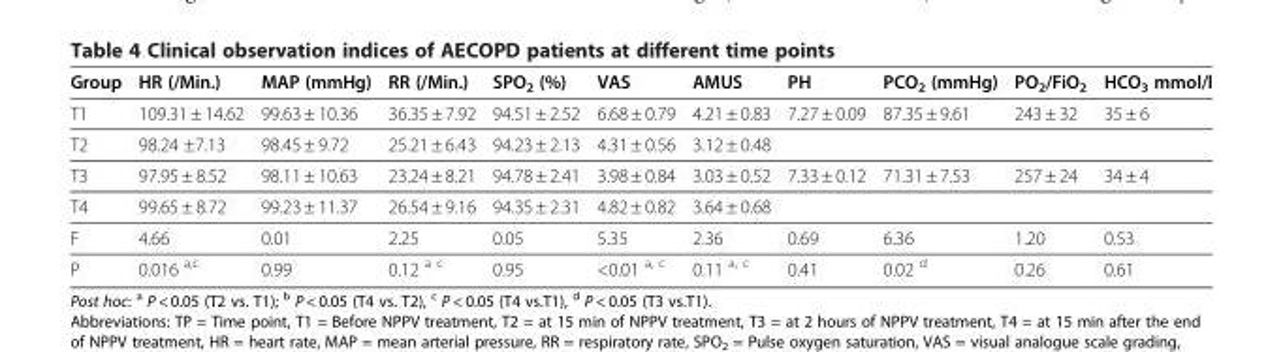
<table><thead><tr><td>Group</td><td>HR (/Min.)</td><td>MAP (mmHg)</td><td>RR (/Min.)</td><td>SPO<sub>2</sub> (%)</td><td>VAS</td><td>AMUS</td><td>PH</td><td>PCO<sub>2</sub> (mmHg)</td><td>PO<sub>2</sub>/FiO<sub>2</sub></td><td>HCO<sub>3</sub> mmol/l</td></tr></thead><tbody><tr><td>T1</td><td>109.31 ± 14.62</td><td>99.63 ± 10.36</td><td>36.35 ± 7.92</td><td>94.51 ± 2.52</td><td>6.68 ± 0.79</td><td>4.21 ± 0.83</td><td>7.27 ± 0.09</td><td>87.35 ± 9.61</td><td>243 ± 32</td><td>35 ± 6</td></tr><tr><td>T2</td><td>98.24 ±7.13</td><td>98.45 ± 9.72</td><td>25.21 ± 6.43</td><td>94.23 ± 2.13</td><td>4.31 ± 0.56</td><td>3.12 ± 0.48</td><td></td><td></td><td></td><td></td></tr><tr><td>T3</td><td>97.95 ± 8.52</td><td>98.11 ± 10.63</td><td>23.24 ± 8.21</td><td>94.78 ± 2.41</td><td>3.98 ± 0.84</td><td>3.03 ± 0.52</td><td>7.33 ± 0.12</td><td>71.31 ± 7.53</td><td>257 ± 24</td><td>34 ± 4</td></tr><tr><td>T4</td><td>99.65 ± 8.72</td><td>99.23 ± 11.37</td><td>26.54 ± 9.16</td><td>94.35 ± 2.31</td><td>4.82 ± 0.82</td><td>3.64 ± 0.68</td><td></td><td></td><td></td><td></td></tr><tr><td>F</td><td>4.66</td><td>0.01</td><td>2.25</td><td>0.05</td><td>5.35</td><td>2.36</td><td>0.69</td><td>6.36</td><td>1.20</td><td>0.53</td></tr><tr><td>P</td><td>0.016 <sup>a,c</sup></td><td>0.99</td><td>0.12 <sup>a c</sup></td><td>0.95</td><td>&lt;0.01 <sup>a, c</sup></td><td>0.11 <sup>a, c</sup></td><td>0.41</td><td>0.02 <sup>d</sup></td><td>0.26</td><td>0.61</td></tr></tbody></table>